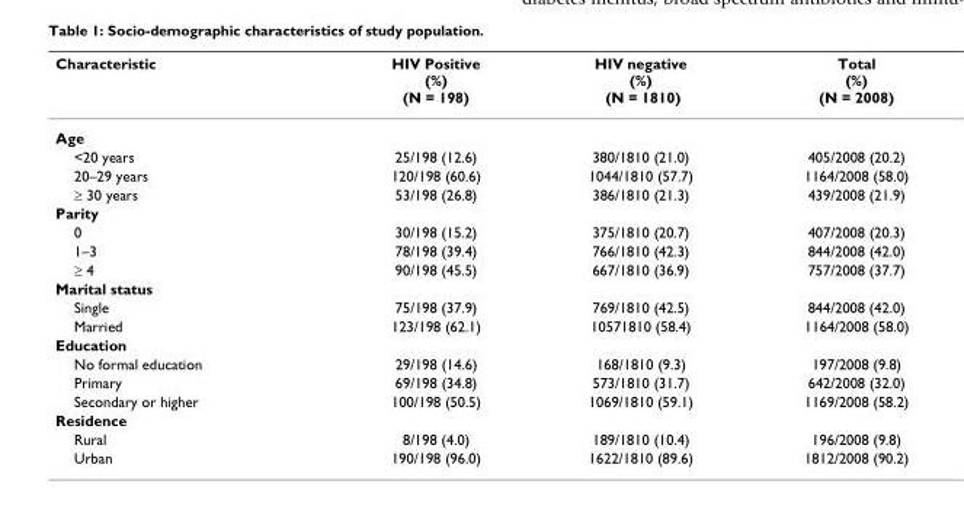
<table><thead><tr><td>Characteristic</td><td>HIV Positive (%) (N = 198)</td><td>HIV negative (%) (N = 1810)</td><td>Total (%) (N = 2008)</td></tr></thead><tbody><tr><td colspan="4">Age</td></tr><tr><td>&lt;20 years</td><td>25/198 (12.6)</td><td>380/1810 (21.0)</td><td>405/2008 (20.2)</td></tr><tr><td>20–29 years</td><td>120/198 (60.6)</td><td>1044/1810 (57.7)</td><td>1164/2008 (58.0)</td></tr><tr><td>≥ 30 years</td><td>53/198 (26.8)</td><td>386/1810 (21.3)</td><td>439/2008 (21.9)</td></tr><tr><td colspan="4">Parity</td></tr><tr><td>0</td><td>30/198 (15.2)</td><td>375/1810 (20.7)</td><td>407/2008 (20.3)</td></tr><tr><td>1–3</td><td>78/198 (39.4)</td><td>766/1810 (42.3)</td><td>844/2008 (42.0)</td></tr><tr><td>≥ 4</td><td>90/198 (45.5)</td><td>667/1810 (36.9)</td><td>757/2008 (37.7)</td></tr><tr><td colspan="4">Marital status</td></tr><tr><td>Single</td><td>75/198 (37.9)</td><td>769/1810 (42.5)</td><td>844/2008 (42.0)</td></tr><tr><td>Married</td><td>123/198 (62.1)</td><td>10571810 (58.4)</td><td>1164/2008 (58.0)</td></tr><tr><td colspan="4">Education</td></tr><tr><td>No formal education</td><td>29/198 (14.6)</td><td>168/1810 (9.3)</td><td>197/2008 (9.8)</td></tr><tr><td>Primary</td><td>69/198 (34.8)</td><td>573/1810 (31.7)</td><td>642/2008 (32.0)</td></tr><tr><td>Secondary or higher</td><td>100/198 (50.5)</td><td>1069/1810 (59.1)</td><td>1169/2008 (58.2)</td></tr><tr><td colspan="4">Residence</td></tr><tr><td>Rural</td><td>8/198 (4.0)</td><td>189/1810 (10.4)</td><td>196/2008 (9.8)</td></tr><tr><td>Urban</td><td>190/198 (96.0)</td><td>1622/1810 (89.6)</td><td>1812/2008 (90.2)</td></tr></tbody></table>